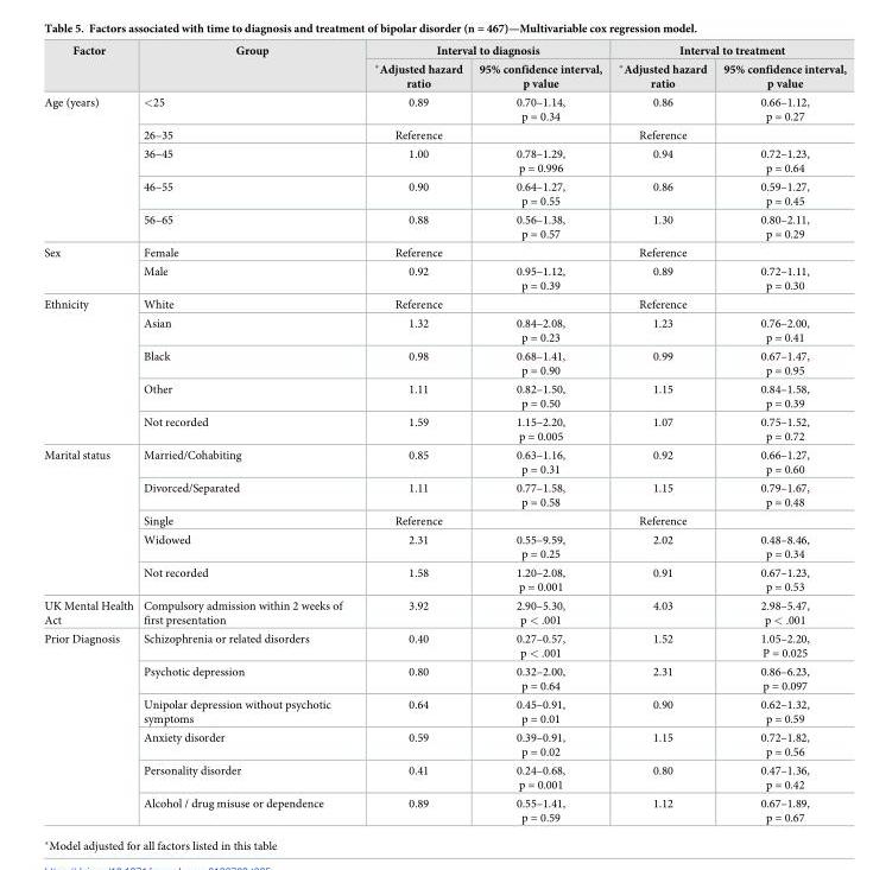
<table><thead><tr><td rowspan="2">Factor</td><td rowspan="2">Group</td><td colspan="2">Interval to diagnosis</td><td colspan="2">Interval to treatment</td></tr><tr><td>*Adjusted hazard ratio</td><td>95% confidence interval, p value</td><td>*Adjusted hazard ratio</td><td>95% confidence interval, p value</td></tr></thead><tbody><tr><td rowspan="5">Age (years)</td><td>&lt;25</td><td>0.89</td><td>0.70–1.14, p = 0.34</td><td>0.86</td><td>0.66–1.12, p = 0.27</td></tr><tr><td>26–35</td><td>Reference</td><td></td><td>Reference</td><td></td></tr><tr><td>36–45</td><td>1.00</td><td>0.78–1.29, p = 0.996</td><td>0.94</td><td>0.72–1.23, p = 0.64</td></tr><tr><td>46–55</td><td>0.90</td><td>0.64–1.27, p = 0.55</td><td>0.86</td><td>0.59–1.27, p = 0.45</td></tr><tr><td>56–65</td><td>0.88</td><td>0.56–1.38, p = 0.57</td><td>1.30</td><td>0.80–2.11, p = 0.29</td></tr><tr><td rowspan="2">Sex</td><td>Female</td><td>Reference</td><td></td><td>Reference</td><td></td></tr><tr><td>Male</td><td>0.92</td><td>0.95–1.12, p = 0.39</td><td>0.89</td><td>0.72–1.11, p = 0.30</td></tr><tr><td rowspan="5">Ethnicity</td><td>White</td><td>Reference</td><td></td><td>Reference</td><td></td></tr><tr><td>Asian</td><td>1.32</td><td>0.84–2.08, p = 0.23</td><td>1.23</td><td>0.76–2.00, p = 0.41</td></tr><tr><td>Black</td><td>0.98</td><td>0.68–1.41, p = 0.90</td><td>0.99</td><td>0.67–1.47, p = 0.95</td></tr><tr><td>Other</td><td>1.11</td><td>0.82–1.50, p = 0.50</td><td>1.15</td><td>0.84–1.58, p = 0.39</td></tr><tr><td>Not recorded</td><td>1.59</td><td>1.15–2.20, p = 0.005</td><td>1.07</td><td>0.75–1.52, p = 0.72</td></tr><tr><td rowspan="5">Marital status</td><td>Married/Cohabiting</td><td>0.85</td><td>0.63–1.16, p = 0.31</td><td>0.92</td><td>0.66–1.27, p = 0.60</td></tr><tr><td>Divorced/Separated</td><td>1.11</td><td>0.77–1.58, p = 0.58</td><td>1.15</td><td>0.79–1.67, p = 0.48</td></tr><tr><td>Single</td><td>Reference</td><td></td><td>Reference</td><td></td></tr><tr><td>Widowed</td><td>2.31</td><td>0.55–9.59, p = 0.25</td><td>2.02</td><td>0.48–8.46, p = 0.34</td></tr><tr><td>Not recorded</td><td>1.58</td><td>1.20–2.08, p = 0.001</td><td>0.91</td><td>0.67–1.23, p = 0.53</td></tr><tr><td>UK Mental Health Act</td><td>Compulsory admission within 2 weeks of first presentation</td><td>3.92</td><td>2.90–5.30, p &lt; .001</td><td>4.03</td><td>2.98–5.47, p &lt; .001</td></tr><tr><td rowspan="6">Prior Diagnosis</td><td>Schizophrenia or related disorders</td><td>0.40</td><td>0.27–0.57, p &lt; .001</td><td>1.52</td><td>1.05–2.20, P = 0.025</td></tr><tr><td>Psychotic depression</td><td>0.80</td><td>0.32–2.00, p = 0.64</td><td>2.31</td><td>0.86–6.23, p = 0.097</td></tr><tr><td>Unipolar depression without psychotic symptoms</td><td>0.64</td><td>0.45–0.91, p = 0.01</td><td>0.90</td><td>0.62–1.32, p = 0.59</td></tr><tr><td>Anxiety disorder</td><td>0.59</td><td>0.39–0.91, p = 0.02</td><td>1.15</td><td>0.72–1.82, p = 0.56</td></tr><tr><td>Personality disorder</td><td>0.41</td><td>0.24–0.68, p = 0.001</td><td>0.80</td><td>0.47–1.36, p = 0.42</td></tr><tr><td>Alcohol / drug misuse or dependence</td><td>0.89</td><td>0.55–1.41, p = 0.59</td><td>1.12</td><td>0.67–1.89, p = 0.67</td></tr></tbody></table>